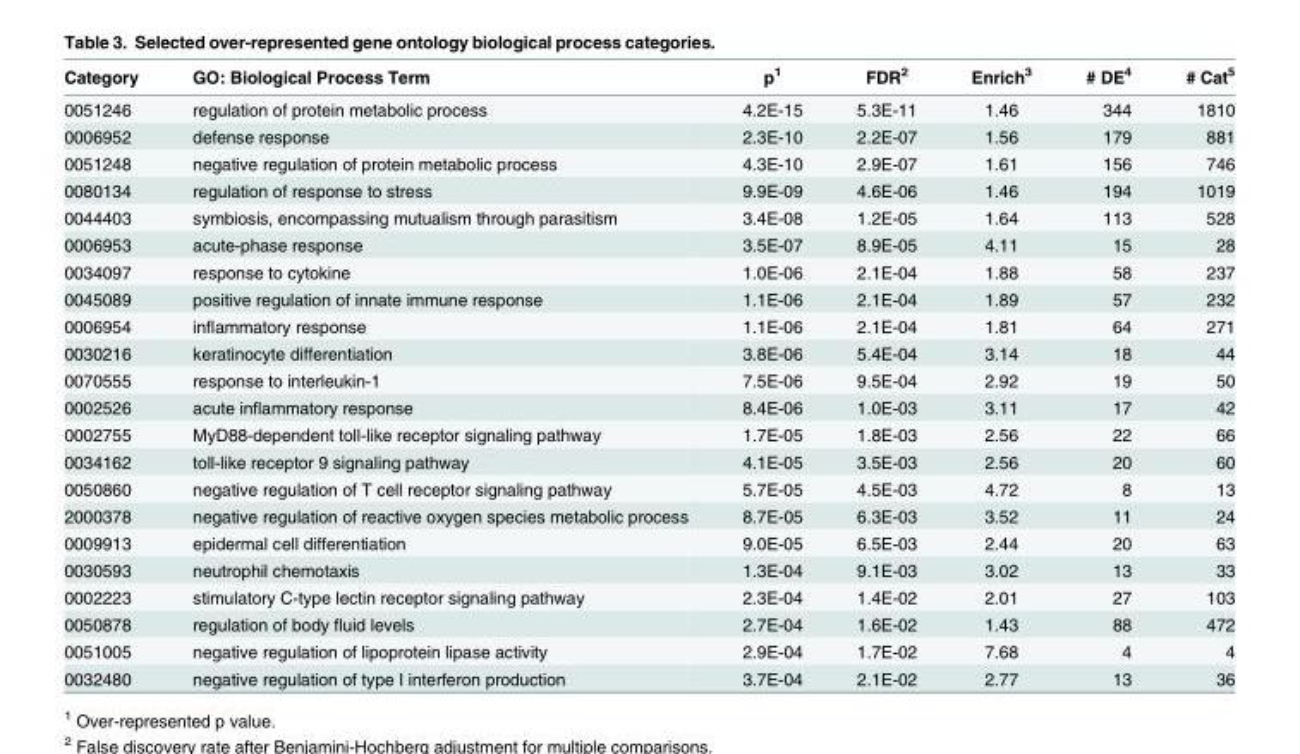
<table><thead><tr><td>Category</td><td>GO: Biological Process Term</td><td>p<sup>1</sup></td><td>FDR<sup>2</sup></td><td>Enrich<sup>3</sup></td><td># DE<sup>4</sup></td><td># Cat<sup>5</sup></td></tr></thead><tbody><tr><td>0051246</td><td>regulation of protein metabolic process</td><td>4.2E-15</td><td>5.3E-11</td><td>1.46</td><td>344</td><td>1810</td></tr><tr><td>0006952</td><td>defense response</td><td>2.3E-10</td><td>2.2E-07</td><td>1.56</td><td>179</td><td>881</td></tr><tr><td>0051248</td><td>negative regulation of protein metabolic process</td><td>4.3E-10</td><td>2.9E-07</td><td>1.61</td><td>156</td><td>746</td></tr><tr><td>0080134</td><td>regulation of response to stress</td><td>9.9E-09</td><td>4.6E-06</td><td>1.46</td><td>194</td><td>1019</td></tr><tr><td>0044403</td><td>symbiosis, encompassing mutualism through parasitism</td><td>3.4E-08</td><td>1.2E-05</td><td>1.64</td><td>113</td><td>528</td></tr><tr><td>0006953</td><td>acute-phase response</td><td>3.5E-07</td><td>8.9E-05</td><td>4.11</td><td>15</td><td>28</td></tr><tr><td>0034097</td><td>response to cytokine</td><td>1.0E-06</td><td>2.1E-04</td><td>1.88</td><td>58</td><td>237</td></tr><tr><td>0045089</td><td>positive regulation of innate immune response</td><td>1.1E-06</td><td>2.1E-04</td><td>1.89</td><td>57</td><td>232</td></tr><tr><td>0006954</td><td>inflammatory response</td><td>1.1E-06</td><td>2.1E-04</td><td>1.81</td><td>64</td><td>271</td></tr><tr><td>0030216</td><td>keratinocyte differentiation</td><td>3.8E-06</td><td>5.4E-04</td><td>3.14</td><td>18</td><td>44</td></tr><tr><td>0070555</td><td>response to interleukin-1</td><td>7.5E-06</td><td>9.5E-04</td><td>2.92</td><td>19</td><td>50</td></tr><tr><td>0002526</td><td>acute inflammatory response</td><td>8.4E-06</td><td>1.0E-03</td><td>3.11</td><td>17</td><td>42</td></tr><tr><td>0002755</td><td>MyD88-dependent toll-like receptor signaling pathway</td><td>1.7E-05</td><td>1.8E-03</td><td>2.56</td><td>22</td><td>66</td></tr><tr><td>0034162</td><td>toll-like receptor 9 signaling pathway</td><td>4.1E-05</td><td>3.5E-03</td><td>2.56</td><td>20</td><td>60</td></tr><tr><td>0050860</td><td>negative regulation of T cell receptor signaling pathway</td><td>5.7E-05</td><td>4.5E-03</td><td>4.72</td><td>8</td><td>13</td></tr><tr><td>2000378</td><td>negative regulation of reactive oxygen species metabolic process</td><td>8.7E-05</td><td>6.3E-03</td><td>3.52</td><td>11</td><td>24</td></tr><tr><td>0009913</td><td>epidermal cell differentiation</td><td>9.0E-05</td><td>6.5E-03</td><td>2.44</td><td>20</td><td>63</td></tr><tr><td>0030593</td><td>neutrophil chemotaxis</td><td>1.3E-04</td><td>9.1E-03</td><td>3.02</td><td>13</td><td>33</td></tr><tr><td>0002223</td><td>stimulatory C-type lectin receptor signaling pathway</td><td>2.3E-04</td><td>1.4E-02</td><td>2.01</td><td>27</td><td>103</td></tr><tr><td>0050878</td><td>regulation of body fluid levels</td><td>2.7E-04</td><td>1.6E-02</td><td>1.43</td><td>88</td><td>472</td></tr><tr><td>0051005</td><td>negative regulation of lipoprotein lipase activity</td><td>2.9E-04</td><td>1.7E-02</td><td>7.68</td><td>4</td><td>4</td></tr><tr><td>0032480</td><td>negative regulation of type I interferon production</td><td>3.7E-04</td><td>2.1E-02</td><td>2.77</td><td>13</td><td>36</td></tr></tbody></table>